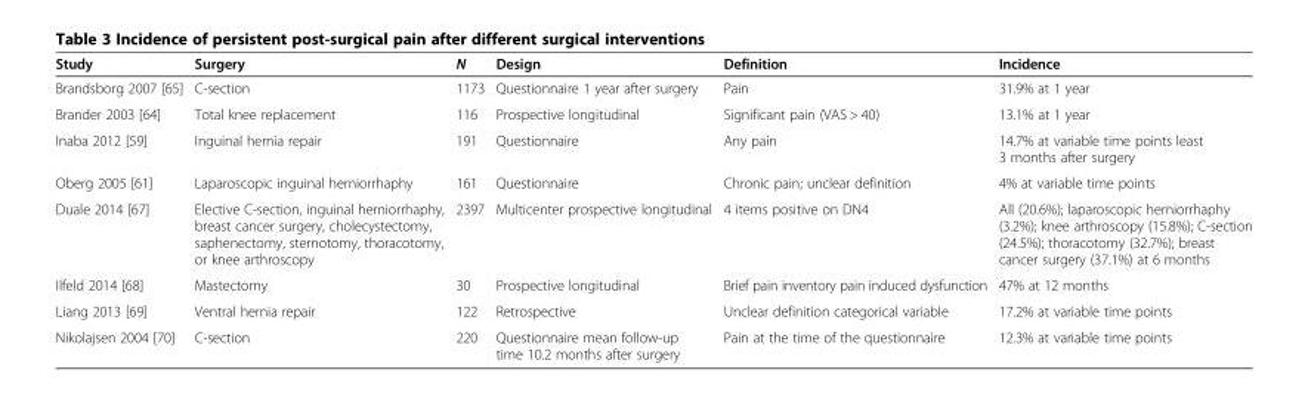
<table><thead><tr><td>Study</td><td>Surgery</td><td>N</td><td>Design</td><td>Definition</td><td>Incidence</td></tr></thead><tbody><tr><td>Brandsborg 2007 [65]</td><td>C-section</td><td>1173</td><td>Questionnaire 1 year after surgery</td><td>Pain</td><td>31.9% at 1 year</td></tr><tr><td>Brander 2003 [64]</td><td>Total knee replacement</td><td>116</td><td>Prospective longitudinal</td><td>Significant pain (VAS &gt; 40)</td><td>13.1% at 1 year</td></tr><tr><td>Inaba 2012 [59]</td><td>Inguinal hernia repair</td><td>191</td><td>Questionnaire</td><td>Any pain</td><td>14.7% at variable time points least 3 months after surgery</td></tr><tr><td>Oberg 2005 [61]</td><td>Laparoscopic inguinal herniorrhaphy</td><td>161</td><td>Questionnaire</td><td>Chronic pain; unclear definition</td><td>4% at variable time points</td></tr><tr><td>Duale 2014 [67]</td><td>Elective C-section, inguinal herniorrhaphy, breast cancer surgery, cholecystectomy, saphenectomy, sternotomy, thoracotomy, or knee arthroscopy</td><td>2397</td><td>Multicenter prospective longitudinal</td><td>4 items positive on DN4</td><td>All (20.6%); laparoscopic herniorrhaphy (3.2%); knee arthroscopy (15.8%); C-section (24.5%); thoracotomy (32.7%); breast cancer surgery (37.1%) at 6 months</td></tr><tr><td>Ilfeld 2014 [68]</td><td>Mastectomy</td><td>30</td><td>Prospective longitudinal</td><td>Brief pain inventory pain induced dysfunction</td><td>47% at 12 months</td></tr><tr><td>Liang 2013 [69]</td><td>Ventral hernia repair</td><td>122</td><td>Retrospective</td><td>Unclear definition categorical variable</td><td>17.2% at variable time points</td></tr><tr><td>Nikolajsen 2004 [70]</td><td>C-section</td><td>220</td><td>Questionnaire mean follow-up time 10.2 months after surgery</td><td>Pain at the time of the questionnaire</td><td>12.3% at variable time points</td></tr></tbody></table>